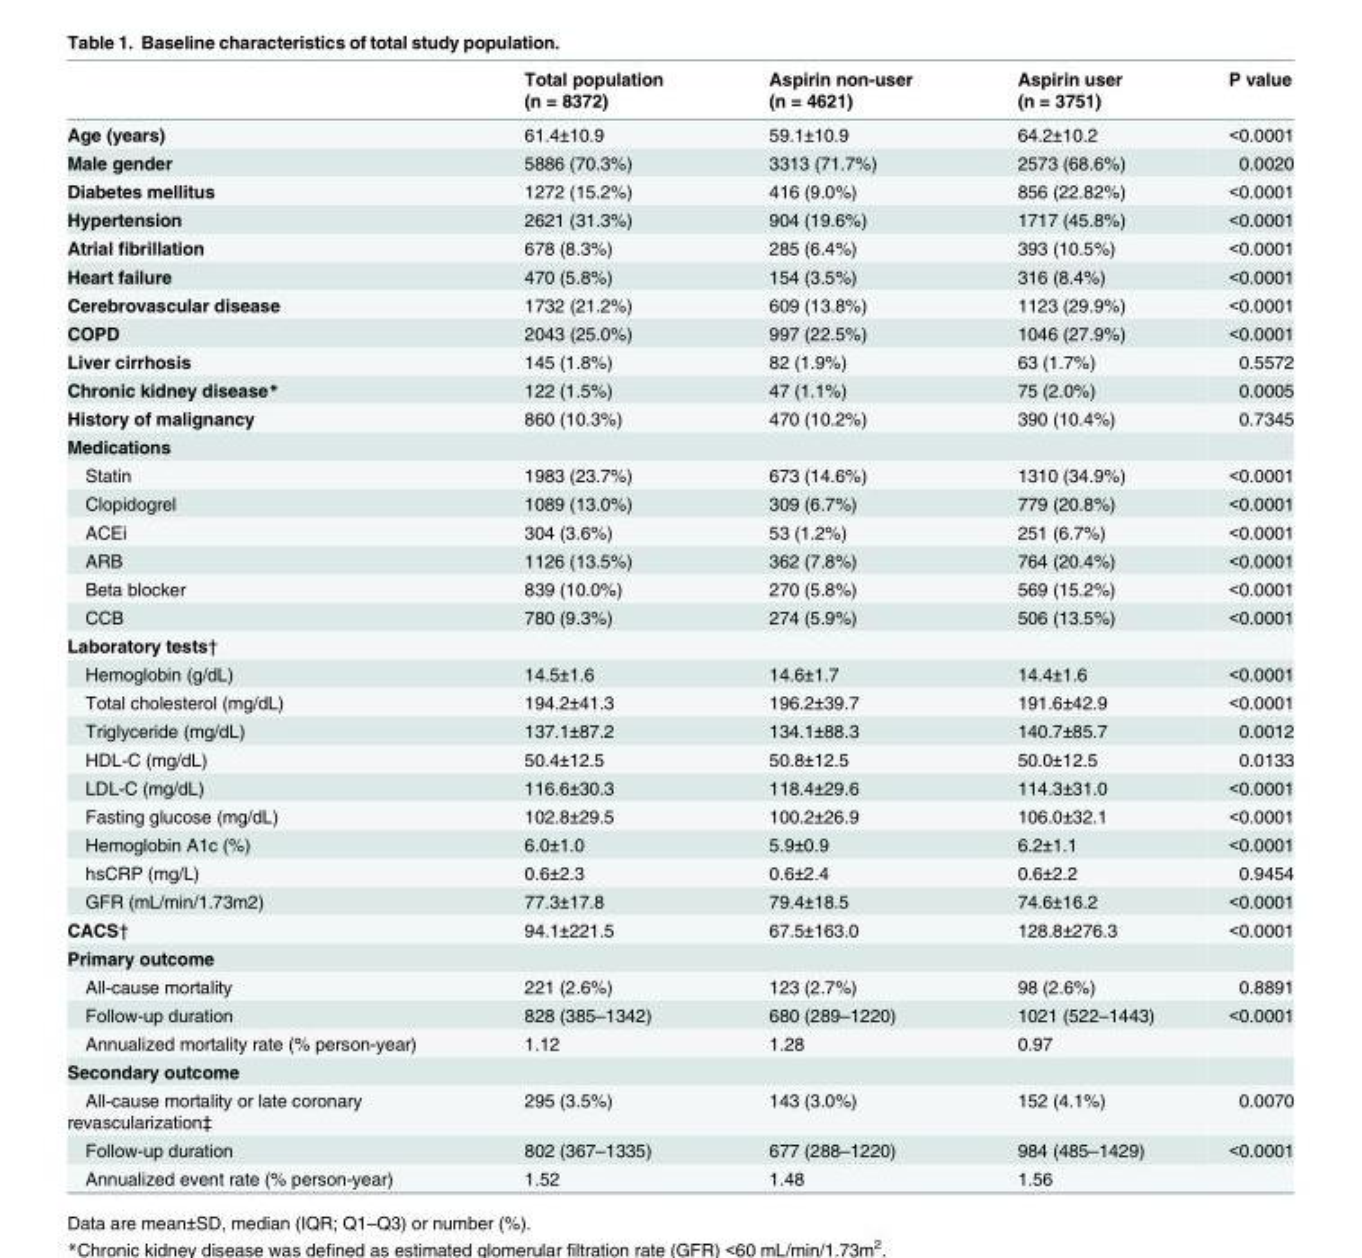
<table><thead><tr><td></td><td>Total population (n = 8372)</td><td>Aspirin non-user (n = 4621)</td><td>Aspirin user (n = 3751)</td><td>P value</td></tr></thead><tbody><tr><td>Age (years)</td><td>61.4±10.9</td><td>59.1±10.9</td><td>64.2±10.2</td><td>&lt;0.0001</td></tr><tr><td>Male gender</td><td>5886 (70.3%)</td><td>3313 (71.7%)</td><td>2573 (68.6%)</td><td>0.0020</td></tr><tr><td>Diabetes mellitus</td><td>1272 (15.2%)</td><td>416 (9.0%)</td><td>856 (22.82%)</td><td>&lt;0.0001</td></tr><tr><td>Hypertension</td><td>2621 (31.3%)</td><td>904 (19.6%)</td><td>1717 (45.8%)</td><td>&lt;0.0001</td></tr><tr><td>Atrial fibrillation</td><td>678 (8.3%)</td><td>285 (6.4%)</td><td>393 (10.5%)</td><td>&lt;0.0001</td></tr><tr><td>Heart failure</td><td>470 (5.8%)</td><td>154 (3.5%)</td><td>316 (8.4%)</td><td>&lt;0.0001</td></tr><tr><td>Cerebrovascular disease</td><td>1732 (21.2%)</td><td>609 (13.8%)</td><td>1123 (29.9%)</td><td>&lt;0.0001</td></tr><tr><td>COPD</td><td>2043 (25.0%)</td><td>997 (22.5%)</td><td>1046 (27.9%)</td><td>&lt;0.0001</td></tr><tr><td>Liver cirrhosis</td><td>145 (1.8%)</td><td>82 (1.9%)</td><td>63 (1.7%)</td><td>0.5572</td></tr><tr><td>Chronic kidney disease*</td><td>122 (1.5%)</td><td>47 (1.1%)</td><td>75 (2.0%)</td><td>0.0005</td></tr><tr><td>History of malignancy</td><td>860 (10.3%)</td><td>470 (10.2%)</td><td>390 (10.4%)</td><td>0.7345</td></tr><tr><td colspan="5">Medications</td></tr><tr><td>Statin</td><td>1983 (23.7%)</td><td>673 (14.6%)</td><td>1310 (34.9%)</td><td>&lt;0.0001</td></tr><tr><td>Clopidogrel</td><td>1089 (13.0%)</td><td>309 (6.7%)</td><td>779 (20.8%)</td><td>&lt;0.0001</td></tr><tr><td>ACEi</td><td>304 (3.6%)</td><td>53 (1.2%)</td><td>251 (6.7%)</td><td>&lt;0.0001</td></tr><tr><td>ARB</td><td>1126 (13.5%)</td><td>362 (7.8%)</td><td>764 (20.4%)</td><td>&lt;0.0001</td></tr><tr><td>Beta blocker</td><td>839 (10.0%)</td><td>270 (5.8%)</td><td>569 (15.2%)</td><td>&lt;0.0001</td></tr><tr><td>CCB</td><td>780 (9.3%)</td><td>274 (5.9%)</td><td>506 (13.5%)</td><td>&lt;0.0001</td></tr><tr><td colspan="5">Laboratory tests†</td></tr><tr><td>Hemoglobin (g/dL)</td><td>14.5±1.6</td><td>14.6±1.7</td><td>14.4±1.6</td><td>&lt;0.0001</td></tr><tr><td>Total cholesterol (mg/dL)</td><td>194.2±41.3</td><td>196.2±39.7</td><td>191.6±42.9</td><td>&lt;0.0001</td></tr><tr><td>Triglyceride (mg/dL)</td><td>137.1±87.2</td><td>134.1±88.3</td><td>140.7±85.7</td><td>0.0012</td></tr><tr><td>HDL-C (mg/dL)</td><td>50.4±12.5</td><td>50.8±12.5</td><td>50.0±12.5</td><td>0.0133</td></tr><tr><td>LDL-C (mg/dL)</td><td>116.6±30.3</td><td>118.4±29.6</td><td>114.3±31.0</td><td>&lt;0.0001</td></tr><tr><td>Fasting glucose (mg/dL)</td><td>102.8±29.5</td><td>100.2±26.9</td><td>106.0±32.1</td><td>&lt;0.0001</td></tr><tr><td>Hemoglobin A1c (%)</td><td>6.0±1.0</td><td>5.9±0.9</td><td>6.2±1.1</td><td>&lt;0.0001</td></tr><tr><td>hsCRP (mg/L)</td><td>0.6±2.3</td><td>0.6±2.4</td><td>0.6±2.2</td><td>0.9454</td></tr><tr><td>GFR (mL/min/1.73m2)</td><td>77.3±17.8</td><td>79.4±18.5</td><td>74.6±16.2</td><td>&lt;0.0001</td></tr><tr><td>CACS†</td><td>94.1±221.5</td><td>67.5±163.0</td><td>128.8±276.3</td><td>&lt;0.0001</td></tr><tr><td colspan="5">Primary outcome</td></tr><tr><td>All-cause mortality</td><td>221 (2.6%)</td><td>123 (2.7%)</td><td>98 (2.6%)</td><td>0.8891</td></tr><tr><td>Follow-up duration</td><td>828 (385–1342)</td><td>680 (289–1220)</td><td>1021 (522–1443)</td><td>&lt;0.0001</td></tr><tr><td>Annualized mortality rate (% person-year)</td><td>1.12</td><td>1.28</td><td>0.97</td><td></td></tr><tr><td colspan="5">Secondary outcome</td></tr><tr><td>All-cause mortality or late coronary revascularization‡</td><td>295 (3.5%)</td><td>143 (3.0%)</td><td>152 (4.1%)</td><td>0.0070</td></tr><tr><td>Follow-up duration</td><td>802 (367–1335)</td><td>677 (288–1220)</td><td>984 (485–1429)</td><td>&lt;0.0001</td></tr><tr><td>Annualized event rate (% person-year)</td><td>1.52</td><td>1.48</td><td>1.56</td><td></td></tr></tbody></table>